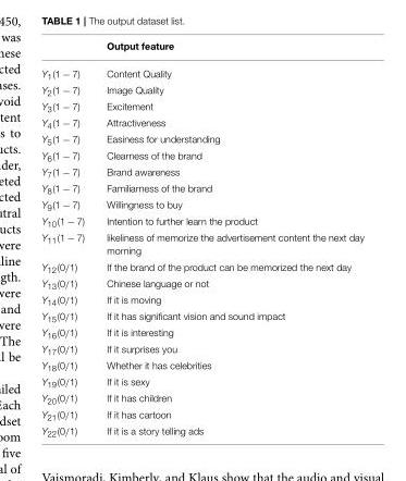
<table><thead><tr><td></td><td>Output feature</td></tr></thead><tbody><tr><td>Y<sub>1</sub>(1 − 7)</td><td>Content Quality</td></tr><tr><td>Y<sub>2</sub>(1 − 7)</td><td>Image Quality</td></tr><tr><td>Y<sub>3</sub>(1 − 7)</td><td>Excitement</td></tr><tr><td>Y<sub>4</sub>(1 − 7)</td><td>Attractiveness</td></tr><tr><td>Y<sub>5</sub>(1 − 7)</td><td>Easiness for understanding</td></tr><tr><td>Y<sub>6</sub>(1 − 7)</td><td>Clearness of the brand</td></tr><tr><td>Y<sub>7</sub>(1 − 7)</td><td>Brand awareness</td></tr><tr><td>Y<sub>8</sub>(1 − 7)</td><td>Familiarness of the brand</td></tr><tr><td>Y<sub>9</sub>(1 − 7)</td><td>Willingness to buy</td></tr><tr><td>Y<sub>10</sub>(1 − 7)</td><td>Intention to further learn the product</td></tr><tr><td>Y<sub>11</sub>(1 − 7)</td><td>likeliness of memorize the advertisement content the next day morning</td></tr><tr><td>Y<sub>12</sub>(0/1)</td><td>If the brand of the product can be memorized the next day</td></tr><tr><td>Y<sub>13</sub>(0/1)</td><td>Chinese language or not</td></tr><tr><td>Y<sub>14</sub>(0/1)</td><td>If it is moving</td></tr><tr><td>Y<sub>15</sub>(0/1)</td><td>If it has significant vision and sound impact</td></tr><tr><td>Y<sub>16</sub>(0/1)</td><td>If it is interesting</td></tr><tr><td>Y<sub>17</sub>(0/1)</td><td>If it surprises you</td></tr><tr><td>Y<sub>18</sub>(0/1)</td><td>Whether it has celebrities</td></tr><tr><td>Y<sub>19</sub>(0/1)</td><td>If it is sexy</td></tr><tr><td>Y<sub>20</sub>(0/1)</td><td>If it has children</td></tr><tr><td>Y<sub>21</sub>(0/1)</td><td>If it has cartoon</td></tr><tr><td>Y<sub>22</sub>(0/1)</td><td>If it is a story telling ads</td></tr></tbody></table>